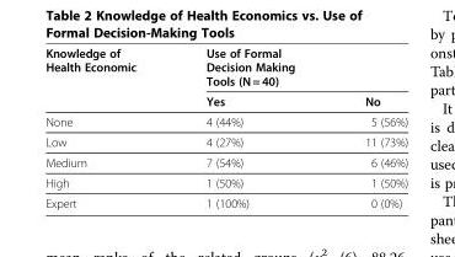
<table><thead><tr><td rowspan="2">Knowledge of Health Economic</td><td rowspan="2">Use of Formal Decision Making Tools (N = 40) Yes</td><td rowspan="2">No</td></tr><tr></tr></thead><tbody><tr><td>None</td><td>4 (44%)</td><td>5 (56%)</td></tr><tr><td>Low</td><td>4 (27%)</td><td>11 (73%)</td></tr><tr><td>Medium</td><td>7 (54%)</td><td>6 (46%)</td></tr><tr><td>High</td><td>1 (50%)</td><td>1 (50%)</td></tr><tr><td>Expert</td><td>1 (100%)</td><td>0 (0%)</td></tr></tbody></table>